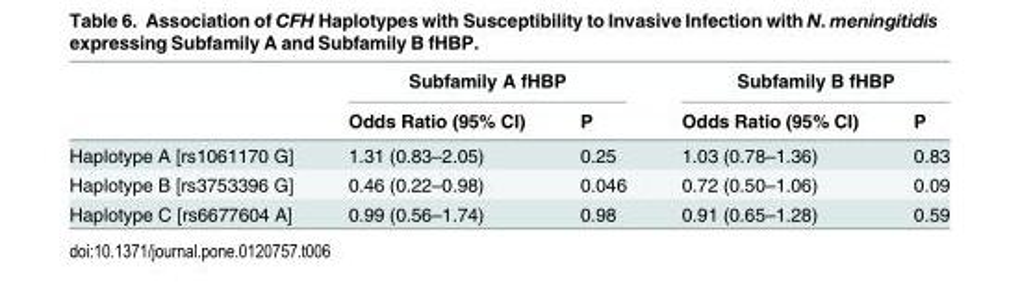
<table><thead><tr><td rowspan="2"></td><td colspan="2">Subfamily A fHBP</td><td colspan="2">Subfamily B fHBP</td></tr><tr><td>Odds Ratio (95% CI)</td><td>P</td><td>Odds Ratio (95% CI)</td><td>P</td></tr></thead><tbody><tr><td>Haplotype A [rs1061170 G]</td><td>1.31 (0.83–2.05)</td><td>0.25</td><td>1.03 (0.78–1.36)</td><td>0.83</td></tr><tr><td>Haplotype B [rs3753396 G]</td><td>0.46 (0.22–0.98)</td><td>0.046</td><td>0.72 (0.50–1.06)</td><td>0.09</td></tr><tr><td>Haplotype C [rs6677604 A]</td><td>0.99 (0.56–1.74)</td><td>0.98</td><td>0.91 (0.65–1.28)</td><td>0.59</td></tr></tbody></table>